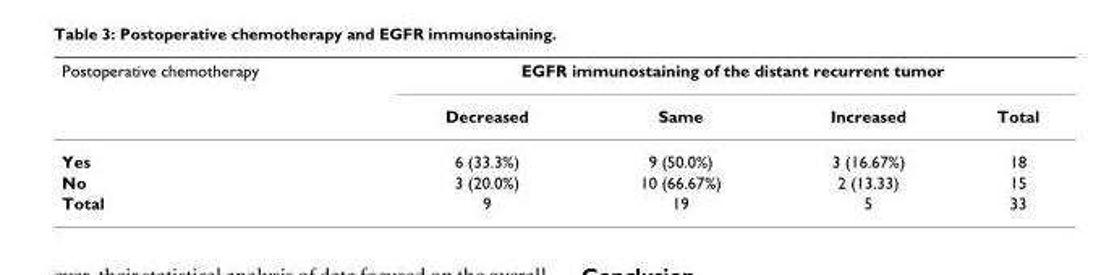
<table><thead><tr><td rowspan="2">Postoperative chemotherapy</td><td colspan="4">EGFR immunostaining of the distant recurrent tumor</td></tr><tr><td>Decreased</td><td>Same</td><td>Increased</td><td>Total</td></tr></thead><tbody><tr><td>Yes</td><td>6 (33.3%)</td><td>9 (50.0%)</td><td>3 (16.67%)</td><td>18</td></tr><tr><td>No</td><td>3 (20.0%)</td><td>10 (66.67%)</td><td>2 (13.33)</td><td>15</td></tr><tr><td>Total</td><td>9</td><td>19</td><td>5</td><td>33</td></tr></tbody></table>